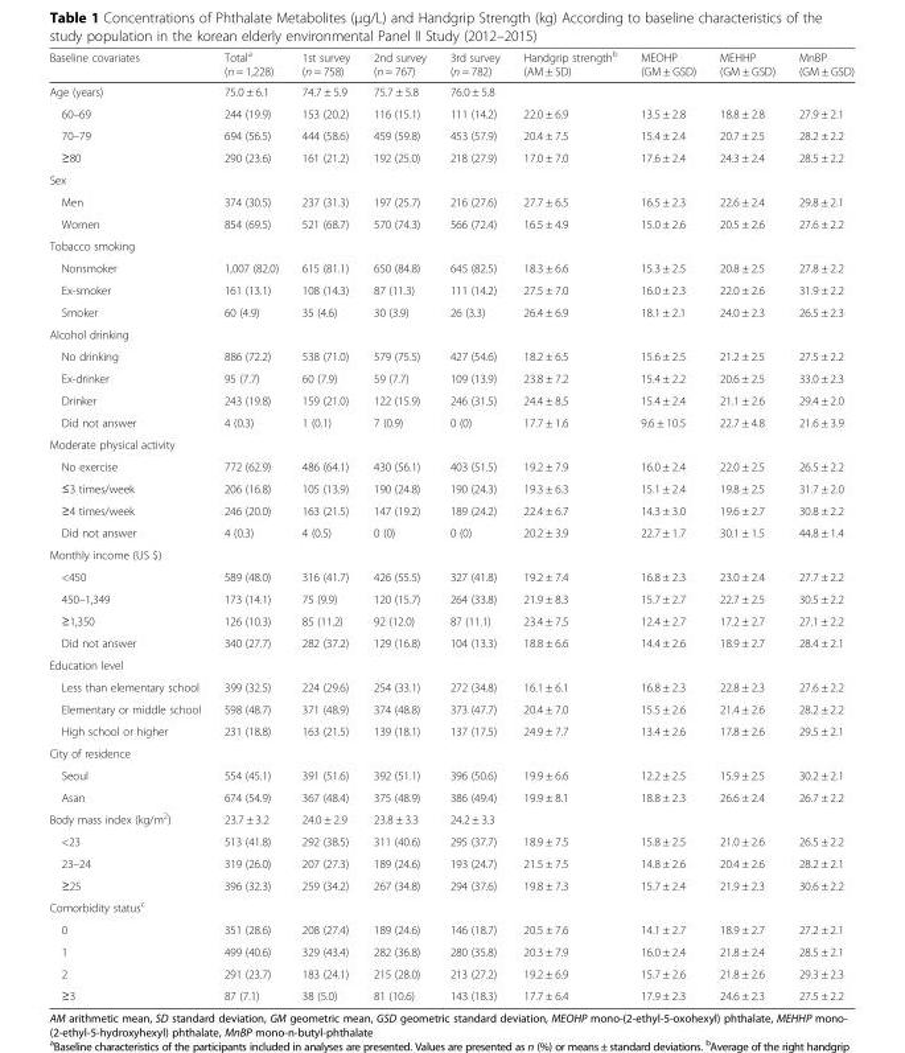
<table><thead><tr><td>Baseline covariates</td><td>Total<sup>a</sup> (n = 1,228)</td><td>1st survey (n = 758)</td><td>2nd survey (n = 767)</td><td>3rd survey (n = 782)</td><td>Handgrip strength<sup>b</sup> (AM ± SD)</td><td>MEOHP (GM ± GSD)</td><td>MEHHP (GM ± GSD)</td><td>MnBP (GM ± GSD)</td></tr></thead><tbody><tr><td>Age (years)</td><td>75.0 ± 6.1</td><td>74.7 ± 5.9</td><td>75.7 ± 5.8</td><td>76.0 ± 5.8</td><td></td><td></td><td></td><td></td></tr><tr><td>60–69</td><td>244 (19.9)</td><td>153 (20.2)</td><td>116 (15.1)</td><td>111 (14.2)</td><td>22.0 ± 6.9</td><td>13.5 ± 2.8</td><td>18.8 ± 2.8</td><td>27.9 ± 2.1</td></tr><tr><td>70–79</td><td>694 (56.5)</td><td>444 (58.6)</td><td>459 (59.8)</td><td>453 (57.9)</td><td>20.4 ± 7.5</td><td>15.4 ± 2.4</td><td>20.7 ± 2.5</td><td>28.2 ± 2.2</td></tr><tr><td>≥80</td><td>290 (23.6)</td><td>161 (21.2)</td><td>192 (25.0)</td><td>218 (27.9)</td><td>17.0 ± 7.0</td><td>17.6 ± 2.4</td><td>24.3 ± 2.4</td><td>28.5 ± 2.2</td></tr><tr><td colspan="9">Sex</td></tr><tr><td>Men</td><td>374 (30.5)</td><td>237 (31.3)</td><td>197 (25.7)</td><td>216 (27.6)</td><td>27.7 ± 6.5</td><td>16.5 ± 2.3</td><td>22.6 ± 2.4</td><td>29.8 ± 2.1</td></tr><tr><td>Women</td><td>854 (69.5)</td><td>521 (68.7)</td><td>570 (74.3)</td><td>566 (72.4)</td><td>16.5 ± 4.9</td><td>15.0 ± 2.6</td><td>20.5 ± 2.6</td><td>27.6 ± 2.2</td></tr><tr><td colspan="9">Tobacco smoking</td></tr><tr><td>Nonsmoker</td><td>1,007 (82.0)</td><td>615 (81.1)</td><td>650 (84.8)</td><td>645 (82.5)</td><td>18.3 ± 6.6</td><td>15.3 ± 2.5</td><td>20.8 ± 2.5</td><td>27.8 ± 2.2</td></tr><tr><td>Ex-smoker</td><td>161 (13.1)</td><td>108 (14.3)</td><td>87 (11.3)</td><td>111 (14.2)</td><td>27.5 ± 7.0</td><td>16.0 ± 2.3</td><td>22.0 ± 2.6</td><td>31.9 ± 2.2</td></tr><tr><td>Smoker</td><td>60 (4.9)</td><td>35 (4.6)</td><td>30 (3.9)</td><td>26 (3.3)</td><td>26.4 ± 6.9</td><td>18.1 ± 2.1</td><td>24.0 ± 2.3</td><td>26.5 ± 2.3</td></tr><tr><td colspan="9">Alcohol drinking</td></tr><tr><td>No drinking</td><td>886 (72.2)</td><td>538 (71.0)</td><td>579 (75.5)</td><td>427 (54.6)</td><td>18.2 ± 6.5</td><td>15.6 ± 2.5</td><td>21.2 ± 2.5</td><td>27.5 ± 2.2</td></tr><tr><td>Ex-drinker</td><td>95 (7.7)</td><td>60 (7.9)</td><td>59 (7.7)</td><td>109 (13.9)</td><td>23.8 ± 7.2</td><td>15.4 ± 2.2</td><td>20.6 ± 2.5</td><td>33.0 ± 2.3</td></tr><tr><td>Drinker</td><td>243 (19.8)</td><td>159 (21.0)</td><td>122 (15.9)</td><td>246 (31.5)</td><td>24.4 ± 8.5</td><td>15.4 ± 2.4</td><td>21.1 ± 2.6</td><td>29.4 ± 2.0</td></tr><tr><td>Did not answer</td><td>4 (0.3)</td><td>1 (0.1)</td><td>7 (0.9)</td><td>0 (0)</td><td>17.7 ± 1.6</td><td>9.6 ± 10.5</td><td>22.7 ± 4.8</td><td>21.6 ± 3.9</td></tr><tr><td colspan="9">Moderate physical activity</td></tr><tr><td>No exercise</td><td>772 (62.9)</td><td>486 (64.1)</td><td>430 (56.1)</td><td>403 (51.5)</td><td>19.2 ± 7.9</td><td>16.0 ± 2.4</td><td>22.0 ± 2.5</td><td>26.5 ± 2.2</td></tr><tr><td>≤3 times/week</td><td>206 (16.8)</td><td>105 (13.9)</td><td>190 (24.8)</td><td>190 (24.3)</td><td>19.3 ± 6.3</td><td>15.1 ± 2.4</td><td>19.8 ± 2.5</td><td>31.7 ± 2.0</td></tr><tr><td>≥4 times/week</td><td>246 (20.0)</td><td>163 (21.5)</td><td>147 (19.2)</td><td>189 (24.2)</td><td>22.4 ± 6.7</td><td>14.3 ± 3.0</td><td>19.6 ± 2.7</td><td>30.8 ± 2.2</td></tr><tr><td>Did not answer</td><td>4 (0.3)</td><td>4 (0.5)</td><td>0 (0)</td><td>0 (0)</td><td>20.2 ± 3.9</td><td>22.7 ± 1.7</td><td>30.1 ± 1.5</td><td>44.8 ± 1.4</td></tr><tr><td colspan="9">Monthly income (US $)</td></tr><tr><td>&lt;450</td><td>589 (48.0)</td><td>316 (41.7)</td><td>426 (55.5)</td><td>327 (41.8)</td><td>19.2 ± 7.4</td><td>16.8 ± 2.3</td><td>23.0 ± 2.4</td><td>27.7 ± 2.2</td></tr><tr><td>450–1,349</td><td>173 (14.1)</td><td>75 (9.9)</td><td>120 (15.7)</td><td>264 (33.8)</td><td>21.9 ± 8.3</td><td>15.7 ± 2.7</td><td>22.7 ± 2.5</td><td>30.5 ± 2.2</td></tr><tr><td>≥1,350</td><td>126 (10.3)</td><td>85 (11.2)</td><td>92 (12.0)</td><td>87 (11.1)</td><td>23.4 ± 7.5</td><td>12.4 ± 2.7</td><td>17.2 ± 2.7</td><td>27.1 ± 2.2</td></tr><tr><td>Did not answer</td><td>340 (27.7)</td><td>282 (37.2)</td><td>129 (16.8)</td><td>104 (13.3)</td><td>18.8 ± 6.6</td><td>14.4 ± 2.6</td><td>18.9 ± 2.7</td><td>28.4 ± 2.1</td></tr><tr><td colspan="9">Education level</td></tr><tr><td>Less than elementary school</td><td>399 (32.5)</td><td>224 (29.6)</td><td>254 (33.1)</td><td>272 (34.8)</td><td>16.1 ± 6.1</td><td>16.8 ± 2.3</td><td>22.8 ± 2.3</td><td>27.6 ± 2.2</td></tr><tr><td>Elementary or middle school</td><td>598 (48.7)</td><td>371 (48.9)</td><td>374 (48.8)</td><td>373 (47.7)</td><td>20.4 ± 7.0</td><td>15.5 ± 2.6</td><td>21.4 ± 2.6</td><td>28.2 ± 2.2</td></tr><tr><td>High school or higher</td><td>231 (18.8)</td><td>163 (21.5)</td><td>139 (18.1)</td><td>137 (17.5)</td><td>24.9 ± 7.7</td><td>13.4 ± 2.6</td><td>17.8 ± 2.6</td><td>29.5 ± 2.1</td></tr><tr><td colspan="9">City of residence</td></tr><tr><td>Seoul</td><td>554 (45.1)</td><td>391 (51.6)</td><td>392 (51.1)</td><td>396 (50.6)</td><td>19.9 ± 6.6</td><td>12.2 ± 2.5</td><td>15.9 ± 2.5</td><td>30.2 ± 2.1</td></tr><tr><td>Asan</td><td>674 (54.9)</td><td>367 (48.4)</td><td>375 (48.9)</td><td>386 (49.4)</td><td>19.9 ± 8.1</td><td>18.8 ± 2.3</td><td>26.6 ± 2.4</td><td>26.7 ± 2.2</td></tr><tr><td>Body mass index (kg/m<sup>2</sup>)</td><td>23.7 ± 3.2</td><td>24.0 ± 2.9</td><td>23.8 ± 3.3</td><td>24.2 ± 3.3</td><td></td><td></td><td></td><td></td></tr><tr><td>&lt;23</td><td>513 (41.8)</td><td>292 (38.5)</td><td>311 (40.6)</td><td>295 (37.7)</td><td>18.9 ± 7.5</td><td>15.8 ± 2.5</td><td>21.0 ± 2.6</td><td>26.5 ± 2.2</td></tr><tr><td>23–24</td><td>319 (26.0)</td><td>207 (27.3)</td><td>189 (24.6)</td><td>193 (24.7)</td><td>21.5 ± 7.5</td><td>14.8 ± 2.6</td><td>20.4 ± 2.6</td><td>28.2 ± 2.1</td></tr><tr><td>≥25</td><td>396 (32.3)</td><td>259 (34.2)</td><td>267 (34.8)</td><td>294 (37.6)</td><td>19.8 ± 7.3</td><td>15.7 ± 2.4</td><td>21.9 ± 2.3</td><td>30.6 ± 2.2</td></tr><tr><td colspan="9">Comorbidity status<sup>c</sup></td></tr><tr><td>0</td><td>351 (28.6)</td><td>208 (27.4)</td><td>189 (24.6)</td><td>146 (18.7)</td><td>20.5 ± 7.6</td><td>14.1 ± 2.7</td><td>18.9 ± 2.7</td><td>27.2 ± 2.1</td></tr><tr><td>1</td><td>499 (40.6)</td><td>329 (43.4)</td><td>282 (36.8)</td><td>280 (35.8)</td><td>20.3 ± 7.9</td><td>16.0 ± 2.4</td><td>21.8 ± 2.4</td><td>28.5 ± 2.1</td></tr><tr><td>2</td><td>291 (23.7)</td><td>183 (24.1)</td><td>215 (28.0)</td><td>213 (27.2)</td><td>19.2 ± 6.9</td><td>15.7 ± 2.6</td><td>21.8 ± 2.6</td><td>29.3 ± 2.3</td></tr><tr><td>≥3</td><td>87 (7.1)</td><td>38 (5.0)</td><td>81 (10.6)</td><td>143 (18.3)</td><td>17.7 ± 6.4</td><td>17.9 ± 2.3</td><td>24.6 ± 2.3</td><td>27.5 ± 2.2</td></tr></tbody></table>